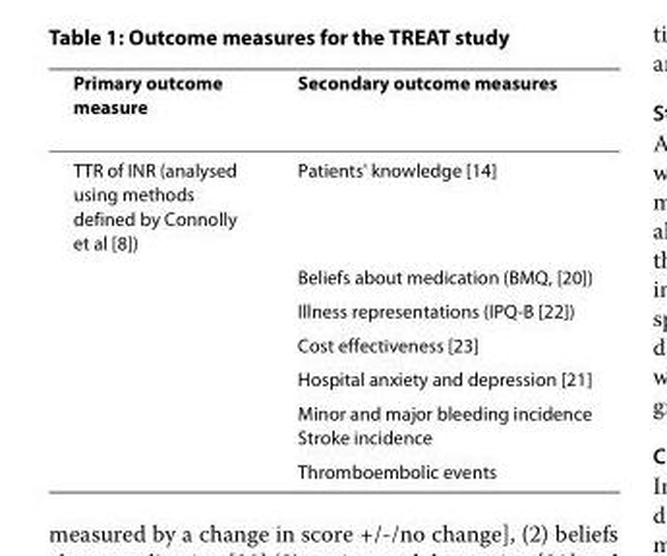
<table><thead><tr><td>Primary outcome measure</td><td>Secondary outcome measures</td></tr></thead><tbody><tr><td rowspan="7">TTR of INR (analysed using methods defined by Connolly et al [8])</td><td>Patients&#x27; knowledge [14]</td></tr><tr><td>Beliefs about medication (BMQ, [20])</td></tr><tr><td>Illness representations (IPQ-B [22])</td></tr><tr><td>Cost effectiveness [23]</td></tr><tr><td>Hospital anxiety and depression [21]</td></tr><tr><td>Minor and major bleeding incidence Stroke incidence</td></tr><tr><td>Thromboembolic events</td></tr></tbody></table>